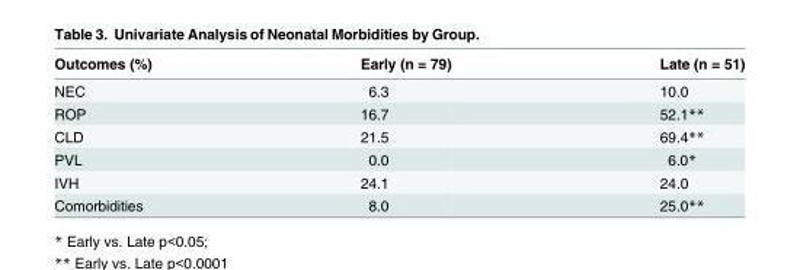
<table><thead><tr><td>Outcomes (%)</td><td>Early (n = 79)</td><td>Late (n = 51)</td></tr></thead><tbody><tr><td>NEC</td><td>6.3</td><td>10.0</td></tr><tr><td>ROP</td><td>16.7</td><td>52.1**</td></tr><tr><td>CLD</td><td>21.5</td><td>69.4**</td></tr><tr><td>PVL</td><td>0.0</td><td>6.0*</td></tr><tr><td>IVH</td><td>24.1</td><td>24.0</td></tr><tr><td>Comorbidities</td><td>8.0</td><td>25.0**</td></tr></tbody></table>